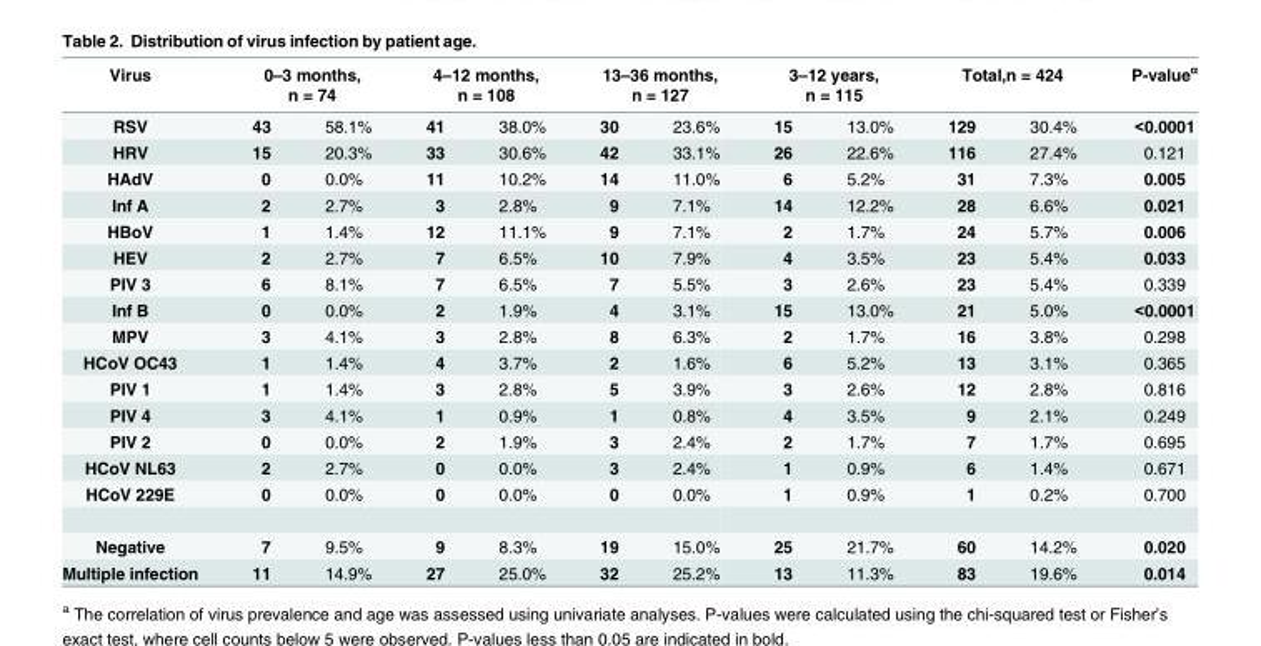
<table><thead><tr><td rowspan="2">Virus RSV</td><td colspan="2">0–3 months, n = 74</td><td colspan="2">4–12 months, n = 108</td><td colspan="2">13–36 months, n = 127</td><td colspan="2">3–12 years, n = 115</td><td colspan="2">Total,n = 424</td><td rowspan="2">P-value<sup>α</sup> &lt;0.0001</td></tr><tr><td>43</td><td>58.1%</td><td>41</td><td>38.0%</td><td>30</td><td>23.6%</td><td>15</td><td>13.0%</td><td>129</td><td>30.4%</td></tr></thead><tbody><tr><td>HRV</td><td>15</td><td>20.3%</td><td>33</td><td>30.6%</td><td>42</td><td>33.1%</td><td>26</td><td>22.6%</td><td>116</td><td>27.4%</td><td>0.121</td></tr><tr><td>HAdV</td><td>0</td><td>0.0%</td><td>11</td><td>10.2%</td><td>14</td><td>11.0%</td><td>6</td><td>5.2%</td><td>31</td><td>7.3%</td><td>0.005</td></tr><tr><td>Inf A</td><td>2</td><td>2.7%</td><td>3</td><td>2.8%</td><td>9</td><td>7.1%</td><td>14</td><td>12.2%</td><td>28</td><td>6.6%</td><td>0.021</td></tr><tr><td>HBoV</td><td>1</td><td>1.4%</td><td>12</td><td>11.1%</td><td>9</td><td>7.1%</td><td>2</td><td>1.7%</td><td>24</td><td>5.7%</td><td>0.006</td></tr><tr><td>HEV</td><td>2</td><td>2.7%</td><td>7</td><td>6.5%</td><td>10</td><td>7.9%</td><td>4</td><td>3.5%</td><td>23</td><td>5.4%</td><td>0.033</td></tr><tr><td>PIV 3</td><td>6</td><td>8.1%</td><td>7</td><td>6.5%</td><td>7</td><td>5.5%</td><td>3</td><td>2.6%</td><td>23</td><td>5.4%</td><td>0.339</td></tr><tr><td>Inf B</td><td>0</td><td>0.0%</td><td>2</td><td>1.9%</td><td>4</td><td>3.1%</td><td>15</td><td>13.0%</td><td>21</td><td>5.0%</td><td>&lt;0.0001</td></tr><tr><td>MPV</td><td>3</td><td>4.1%</td><td>3</td><td>2.8%</td><td>8</td><td>6.3%</td><td>2</td><td>1.7%</td><td>16</td><td>3.8%</td><td>0.298</td></tr><tr><td>HCoV OC43</td><td>1</td><td>1.4%</td><td>4</td><td>3.7%</td><td>2</td><td>1.6%</td><td>6</td><td>5.2%</td><td>13</td><td>3.1%</td><td>0.365</td></tr><tr><td>PIV 1</td><td>1</td><td>1.4%</td><td>3</td><td>2.8%</td><td>5</td><td>3.9%</td><td>3</td><td>2.6%</td><td>12</td><td>2.8%</td><td>0.816</td></tr><tr><td>PIV 4</td><td>3</td><td>4.1%</td><td>1</td><td>0.9%</td><td>1</td><td>0.8%</td><td>4</td><td>3.5%</td><td>9</td><td>2.1%</td><td>0.249</td></tr><tr><td>PIV 2</td><td>0</td><td>0.0%</td><td>2</td><td>1.9%</td><td>3</td><td>2.4%</td><td>2</td><td>1.7%</td><td>7</td><td>1.7%</td><td>0.695</td></tr><tr><td>HCoV NL63</td><td>2</td><td>2.7%</td><td>0</td><td>0.0%</td><td>3</td><td>2.4%</td><td>1</td><td>0.9%</td><td>6</td><td>1.4%</td><td>0.671</td></tr><tr><td>HCoV 229E</td><td>0</td><td>0.0%</td><td>0</td><td>0.0%</td><td>0</td><td>0.0%</td><td>1</td><td>0.9%</td><td>1</td><td>0.2%</td><td>0.700</td></tr><tr><td>Negative</td><td>7</td><td>9.5%</td><td>9</td><td>8.3%</td><td>19</td><td>15.0%</td><td>25</td><td>21.7%</td><td>60</td><td>14.2%</td><td>0.020</td></tr><tr><td>Multiple infection</td><td>11</td><td>14.9%</td><td>27</td><td>25.0%</td><td>32</td><td>25.2%</td><td>13</td><td>11.3%</td><td>83</td><td>19.6%</td><td>0.014</td></tr></tbody></table>